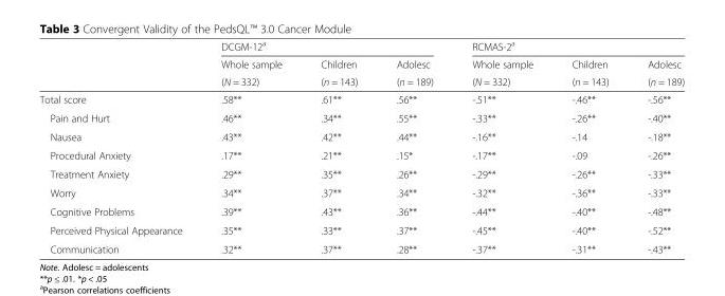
<table><thead><tr><td rowspan="3"></td><td colspan="3">DCGM-12<sup>a</sup></td><td colspan="3">RCMAS-2<sup>a</sup></td></tr><tr><td rowspan="2">Whole sample (N = 332)</td><td rowspan="2">Children (n = 143)</td><td rowspan="2">Adolesc (n = 189)</td><td rowspan="2">Whole sample (N = 332)</td><td rowspan="2">Children (n = 143)</td><td rowspan="2">Adolesc (n = 189)</td></tr><tr></tr></thead><tbody><tr><td>Total score</td><td>.58**</td><td>.61**</td><td>.56**</td><td>-.51**</td><td>-.46**</td><td>-.56**</td></tr><tr><td>Pain and Hurt</td><td>.46**</td><td>.34**</td><td>.55**</td><td>-.33**</td><td>-.26**</td><td>-.40**</td></tr><tr><td>Nausea</td><td>.43**</td><td>.42**</td><td>.44**</td><td>-.16**</td><td>-.14</td><td>-.18**</td></tr><tr><td>Procedural Anxiety</td><td>.17**</td><td>.21**</td><td>.15*</td><td>-.17**</td><td>-.09</td><td>-.26**</td></tr><tr><td>Treatment Anxiety</td><td>.29**</td><td>.35**</td><td>.26**</td><td>-.29**</td><td>-.26**</td><td>-.33**</td></tr><tr><td>Worry</td><td>.34**</td><td>.37**</td><td>.34**</td><td>-.32**</td><td>-.36**</td><td>-.33**</td></tr><tr><td>Cognitive Problems</td><td>.39**</td><td>.43**</td><td>.36**</td><td>-.44**</td><td>-.40**</td><td>-.48**</td></tr><tr><td>Perceived Physical Appearance</td><td>.35**</td><td>.33**</td><td>.37**</td><td>-.45**</td><td>-.40**</td><td>-.52**</td></tr><tr><td>Communication</td><td>.32**</td><td>.37**</td><td>.28**</td><td>-.37**</td><td>-.31**</td><td>-.43**</td></tr></tbody></table>